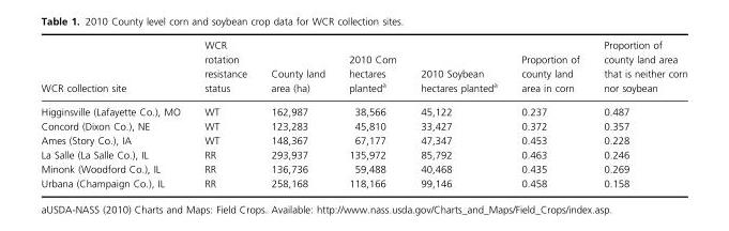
<table><thead><tr><td>WCR collection site</td><td>WCR rotation resistance status</td><td>County land area (ha)</td><td>2010 Corn hectares planted<sup>a</sup></td><td>2010 Soybean hectares planted<sup>a</sup></td><td>Proportion of county land area in corn</td><td>Proportion of county land area that is neither corn nor soybean</td></tr></thead><tbody><tr><td>Higginsville (Lafayette Co.), MO</td><td>WT</td><td>162,987</td><td>38,566</td><td>45,122</td><td>0.237</td><td>0.487</td></tr><tr><td>Concord (Dixon Co.), NE</td><td>WT</td><td>123,283</td><td>45,810</td><td>33,427</td><td>0.372</td><td>0.357</td></tr><tr><td>Ames (Story Co.), IA</td><td>WT</td><td>148,367</td><td>67,177</td><td>47,347</td><td>0.453</td><td>0.228</td></tr><tr><td>La Salle (La Salle Co.), IL</td><td>RR</td><td>293,937</td><td>135,972</td><td>85,792</td><td>0.463</td><td>0.246</td></tr><tr><td>Minonk (Woodford Co.), IL</td><td>RR</td><td>136,736</td><td>59,488</td><td>40,468</td><td>0.435</td><td>0.269</td></tr><tr><td>Urbana (Champaign Co.), IL</td><td>RR</td><td>258,168</td><td>118,166</td><td>99,146</td><td>0.458</td><td>0.158</td></tr></tbody></table>